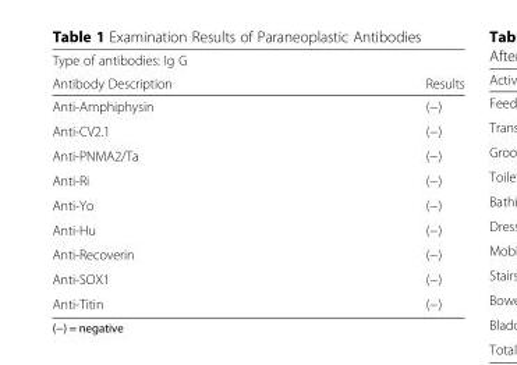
<table><thead><tr><td rowspan="2">Type of antibodies: Ig G Antibody Description</td><td rowspan="2">Results</td></tr><tr></tr></thead><tbody><tr><td>Anti-Amphiphysin</td><td>(−)</td></tr><tr><td>Anti-CV2.1</td><td>(−)</td></tr><tr><td>Anti-PNMA2/Ta</td><td>(−)</td></tr><tr><td>Anti-Ri</td><td>(−)</td></tr><tr><td>Anti-Yo</td><td>(−)</td></tr><tr><td>Anti-Hu</td><td>(−)</td></tr><tr><td>Anti-Recoverin</td><td>(−)</td></tr><tr><td>Anti-SOX1</td><td>(−)</td></tr><tr><td>Anti-Titin</td><td>(−)</td></tr></tbody></table>